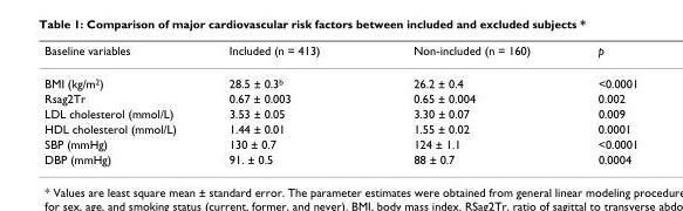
<table><thead><tr><td>Baseline variables</td><td>Included (n = 413)</td><td>Non-included (n = 160)</td><td>p</td></tr></thead><tbody><tr><td>BMI (kg/m<sup>2</sup>)</td><td>28.5 ± 0.3<sup>b</sup></td><td>26.2 ± 0.4</td><td>&lt;0.0001</td></tr><tr><td>Rsag2Tr</td><td>0.67 ± 0.003</td><td>0.65 ± 0.004</td><td>0.002</td></tr><tr><td>LDL cholesterol (mmol/L)</td><td>3.53 ± 0.05</td><td>3.30 ± 0.07</td><td>0.009</td></tr><tr><td>HDL cholesterol (mmol/L)</td><td>1.44 ± 0.01</td><td>1.55 ± 0.02</td><td>0.0001</td></tr><tr><td>SBP (mmHg)</td><td>130 ± 0.7</td><td>124 ± 1.1</td><td>&lt;0.0001</td></tr><tr><td>DBP (mmHg)</td><td>91. ± 0.5</td><td>88 ± 0.7</td><td>0.0004</td></tr></tbody></table>